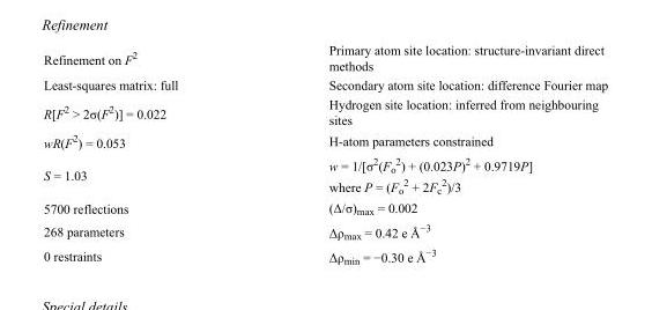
<table><tbody><tr><td>Refinement on F<sup>2</sup></td><td>Primary atom site location: structure-invariant direct methods</td></tr><tr><td>Least-squares matrix: full</td><td>Secondary atom site location: difference Fourier map</td></tr><tr><td>R[F<sup>2</sup> &gt; 2σ(F<sup>2</sup>)] = 0.022</td><td>Hydrogen site location: inferred from neighbouring sites</td></tr><tr><td>wR(F<sup>2</sup>) = 0.053</td><td>H-atom parameters constrained</td></tr><tr><td>S = 1.03</td><td>w = 1/[σ<sup>2</sup>(F<sub>o</sub> <sup>2</sup>) + (0.023P)<sup>2</sup> + 0.9719P] where P = (F<sub>o</sub> <sup>2</sup> + 2F<sub>c</sub> <sup>2</sup>)/3</td></tr><tr><td>5700 reflections</td><td>(Δ/σ)<sub>max</sub> = 0.002</td></tr><tr><td>268 parameters</td><td>Δρ<sub>max</sub> = 0.42 e Å<sup>−3</sup></td></tr><tr><td>0 restraints</td><td>Δρ<sub>min</sub> = −0.30 e Å<sup>−3</sup></td></tr></tbody></table>